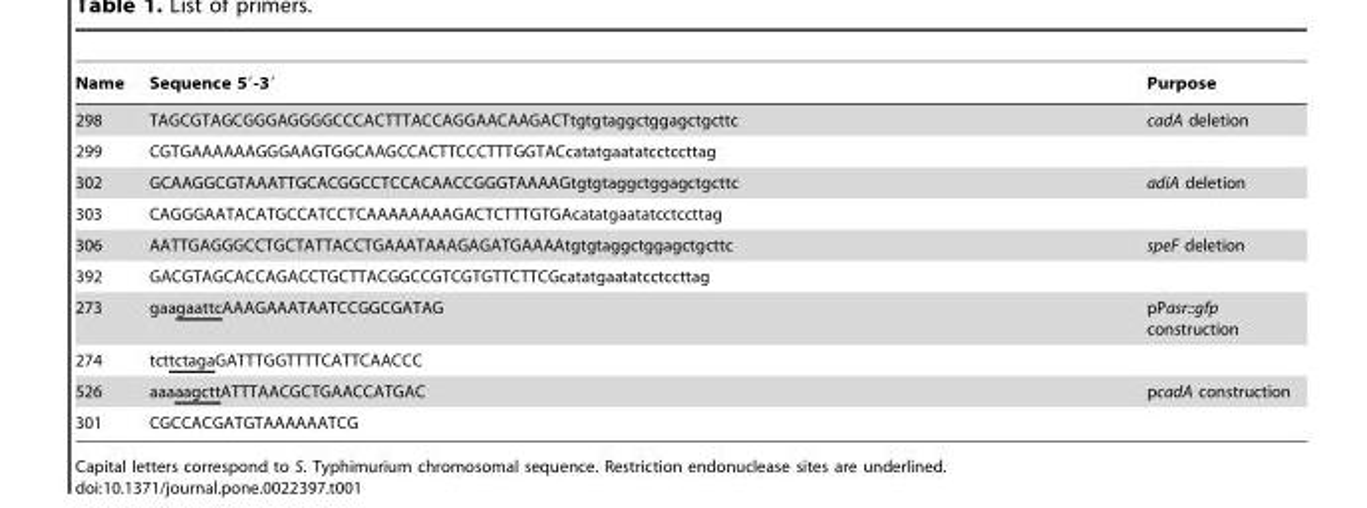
<table><thead><tr><td>Name</td><td>Sequence 5′-3′</td><td>Purpose</td></tr></thead><tbody><tr><td>298</td><td>TAGCGTAGCGGGAGGGGCCCACTTTACCAGGAACAAGACTtgtgtaggctggagctgcttc</td><td>cadA deletion</td></tr><tr><td>299</td><td>CGTGAAAAAAGGGAAGTGGCAAGCCACTTCCCTTTGGTACcatatgaatatcctccttag</td><td></td></tr><tr><td>302</td><td>GCAAGGCGTAAATTGCACGGCCTCCACAACCGGGTAAAAGtgtgtaggctggagctgcttc</td><td>adiA deletion</td></tr><tr><td>303</td><td>CAGGGAATACATGCCATCCTCAAAAAAAAGACTCTTTGTGAcatatgaatatcctccttag</td><td></td></tr><tr><td>306</td><td>AATTGAGGGCCTGCTATTACCTGAAATAAAGAGATGAAAAtgtgtaggctggagctgcttc</td><td>speF deletion</td></tr><tr><td>392</td><td>GACGTAGCACCAGACCTGCTTACGGCCGTCGTGTTCTTCGcatatgaatatcctccttag</td><td></td></tr><tr><td>273</td><td>gaagaattcAAAGAAATAATCCGGCGATAG</td><td>pPasr::gfp construction</td></tr><tr><td>274</td><td>tcttctagaGATTTGGTTTTCATTCAACCC</td><td></td></tr><tr><td>526</td><td>aaaaagcttATTTAACGCTGAACCATGAC</td><td>pcadA construction</td></tr><tr><td>301</td><td>CGCCACGATGTAAAAAATCG</td><td></td></tr></tbody></table>